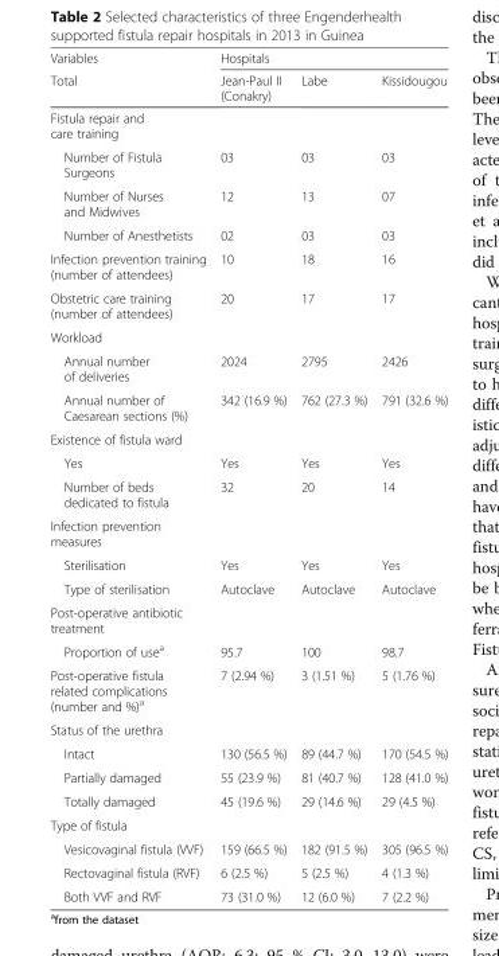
<table><thead><tr><td rowspan="2">Variables Total</td><td colspan="3">Hospitals</td></tr><tr><td>Jean-Paul II (Conakry)</td><td>Labe</td><td>Kissidougou</td></tr></thead><tbody><tr><td colspan="4">Fistula repair and care training</td></tr><tr><td>Number of Fistula Surgeons</td><td>03</td><td>03</td><td>03</td></tr><tr><td>Number of Nurses and Midwives</td><td>12</td><td>13</td><td>07</td></tr><tr><td>Number of Anesthetists</td><td>02</td><td>03</td><td>03</td></tr><tr><td>Infection prevention training (number of attendees)</td><td>10</td><td>18</td><td>16</td></tr><tr><td>Obstetric care training (number of attendees)</td><td>20</td><td>17</td><td>17</td></tr><tr><td colspan="4">Workload</td></tr><tr><td>Annual number of deliveries</td><td>2024</td><td>2795</td><td>2426</td></tr><tr><td>Annual number of Caesarean sections (%)</td><td>342 (16.9 %)</td><td>762 (27.3 %)</td><td>791 (32.6 %)</td></tr><tr><td colspan="4">Existence of fistula ward</td></tr><tr><td>Yes</td><td>Yes</td><td>Yes</td><td>Yes</td></tr><tr><td>Number of beds dedicated to fistula</td><td>32</td><td>20</td><td>14</td></tr><tr><td colspan="4">Infection prevention measures</td></tr><tr><td>Sterilisation</td><td>Yes</td><td>Yes</td><td>Yes</td></tr><tr><td>Type of sterilisation</td><td>Autoclave</td><td>Autoclave</td><td>Autoclave</td></tr><tr><td colspan="4">Post-operative antibiotic treatment</td></tr><tr><td>Proportion of use<sup>a</sup></td><td>95.7</td><td>100</td><td>98.7</td></tr><tr><td>Post-operative fistula related complications (number and %)<sup>a</sup></td><td>7 (2.94 %)</td><td>3 (1.51 %)</td><td>5 (1.76 %)</td></tr><tr><td colspan="4">Status of the urethra</td></tr><tr><td>Intact</td><td>130 (56.5 %)</td><td>89 (44.7 %)</td><td>170 (54.5 %)</td></tr><tr><td>Partially damaged</td><td>55 (23.9 %)</td><td>81 (40.7 %)</td><td>128 (41.0 %)</td></tr><tr><td>Totally damaged</td><td>45 (19.6 %)</td><td>29 (14.6 %)</td><td>29 (4.5 %)</td></tr><tr><td colspan="4">Type of fistula</td></tr><tr><td>Vesicovaginal fistula (VVF)</td><td>159 (66.5 %)</td><td>182 (91.5 %)</td><td>305 (96.5 %)</td></tr><tr><td>Rectovaginal fistula (RVF)</td><td>6 (2.5 %)</td><td>5 (2.5 %)</td><td>4 (1.3 %)</td></tr><tr><td>Both VVF and RVF</td><td>73 (31.0 %)</td><td>12 (6.0 %)</td><td>7 (2.2 %)</td></tr></tbody></table>